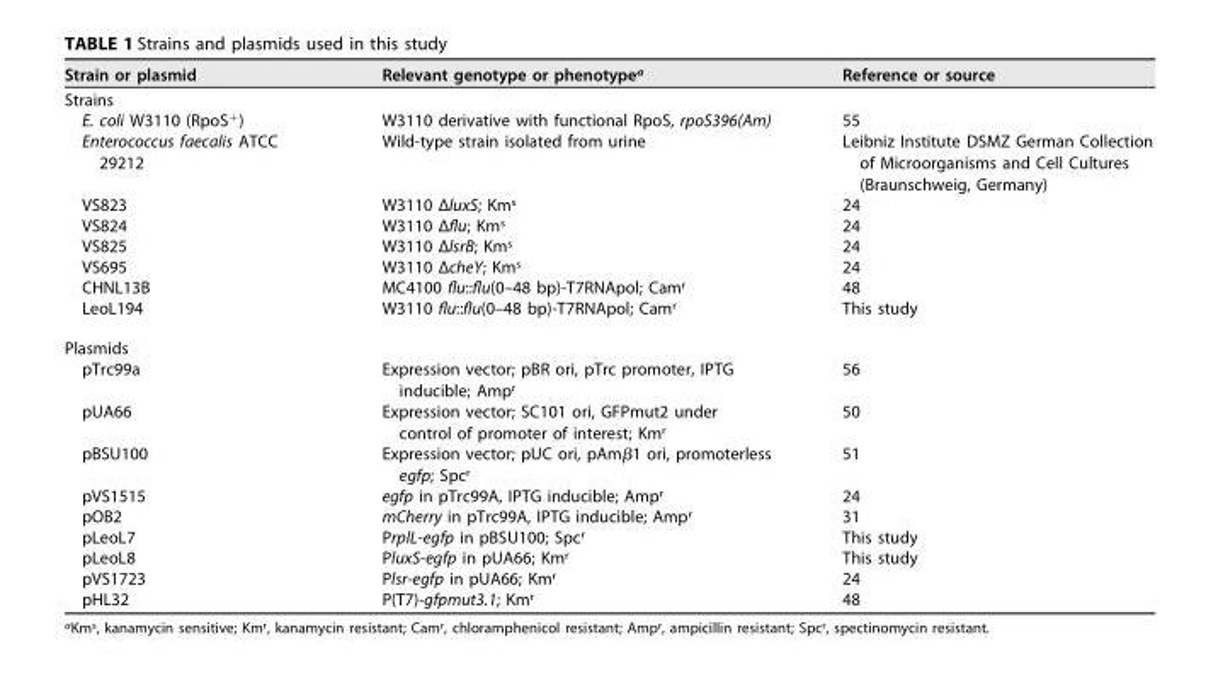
<table><thead><tr><td>Strain or plasmid</td><td>Relevant genotype or phenotype<sup>a</sup></td><td>Reference or source</td></tr></thead><tbody><tr><td colspan="3">Strains</td></tr><tr><td>E. coli W3110 (RpoS<sup>+</sup>)</td><td>W3110 derivative with functional RpoS, rpoS396(Am)</td><td>55</td></tr><tr><td>Enterococcus faecalis ATCC 29212</td><td>Wild-type strain isolated from urine</td><td>Leibniz Institute DSMZ German Collection of Microorganisms and Cell Cultures (Braunschweig, Germany)</td></tr><tr><td>VS823</td><td>W3110 ΔluxS; Km<sup>s</sup></td><td>24</td></tr><tr><td>VS824</td><td>W3110 Δflu; Km<sup>s</sup></td><td>24</td></tr><tr><td>VS825</td><td>W3110 ΔlsrB; Km<sup>s</sup></td><td>24</td></tr><tr><td>VS695</td><td>W3110 ΔcheY; Km<sup>s</sup></td><td>24</td></tr><tr><td>CHNL13B</td><td>MC4100 flu::flu(0–48 bp)-T7RNApol; Cam<sup>r</sup></td><td>48</td></tr><tr><td>LeoL194</td><td>W3110 flu::flu(0–48 bp)-T7RNApol; Cam<sup>r</sup></td><td>This study</td></tr><tr><td colspan="3">Plasmids</td></tr><tr><td>pTrc99a</td><td>Expression vector; pBR ori, pTrc promoter, IPTG inducible; Amp<sup>r</sup></td><td>56</td></tr><tr><td>pUA66</td><td>Expression vector; SC101 ori, GFPmut2 under control of promoter of interest; Km<sup>r</sup></td><td>50</td></tr><tr><td>pBSU100</td><td>Expression vector; pUC ori, pAmβ1 ori, promoterless egfp; Spc<sup>r</sup></td><td>51</td></tr><tr><td>pVS1515</td><td>egfp in pTrc99A, IPTG inducible; Amp<sup>r</sup></td><td>24</td></tr><tr><td>pOB2</td><td>mCherry in pTrc99A, IPTG inducible; Amp<sup>r</sup></td><td>31</td></tr><tr><td>pLeoL7</td><td>PrplL-egfp in pBSU100; Spc<sup>r</sup></td><td>This study</td></tr><tr><td>pLeoL8</td><td>PluxS-egfp in pUA66; Km<sup>r</sup></td><td>This study</td></tr><tr><td>pVS1723</td><td>Plsr-egfp in pUA66; Km<sup>r</sup></td><td>24</td></tr><tr><td>pHL32</td><td>P(T7)-gfpmut3.1; Km<sup>r</sup></td><td>48</td></tr></tbody></table>